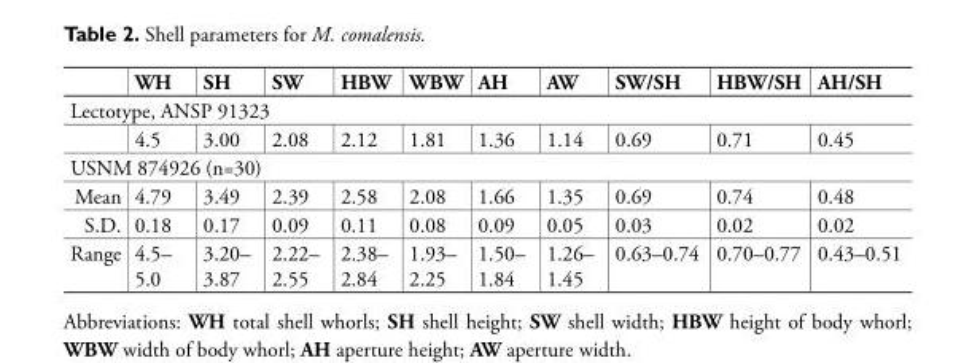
<table><thead><tr><td></td><td>WH</td><td>SH</td><td>SW</td><td>HBW</td><td>WBW</td><td>AH</td><td>AW</td><td>SW/SH</td><td>HBW/SH</td><td>AH/SH</td></tr></thead><tbody><tr><td colspan="11">Lectotype, ANSP 91323</td></tr><tr><td></td><td>4.5</td><td>3.00</td><td>2.08</td><td>2.12</td><td>1.81</td><td>1.36</td><td>1.14</td><td>0.69</td><td>0.71</td><td>0.45</td></tr><tr><td colspan="11">USNM 874926 (n=30)</td></tr><tr><td>Mean</td><td>4.79</td><td>3.49</td><td>2.39</td><td>2.58</td><td>2.08</td><td>1.66</td><td>1.35</td><td>0.69</td><td>0.74</td><td>0.48</td></tr><tr><td>S.D.</td><td>0.18</td><td>0.17</td><td>0.09</td><td>0.11</td><td>0.08</td><td>0.09</td><td>0.05</td><td>0.03</td><td>0.02</td><td>0.02</td></tr><tr><td>Range</td><td>4.5– 5.0</td><td>3.20– 3.87</td><td>2.22– 2.55</td><td>2.38– 2.84</td><td>1.93– 2.25</td><td>1.50– 1.84</td><td>1.26– 1.45</td><td>0.63–0.74</td><td>0.70–0.77</td><td>0.43–0.51</td></tr></tbody></table>